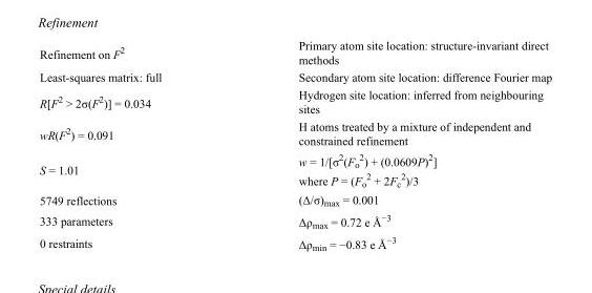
<table><tbody><tr><td>Refinement on F<sup>2</sup></td><td>Primary atom site location: structure-invariant direct methods</td></tr><tr><td>Least-squares matrix: full</td><td>Secondary atom site location: difference Fourier map</td></tr><tr><td>R[F<sup>2</sup> &gt; 2σ(F<sup>2</sup>)] = 0.034</td><td>Hydrogen site location: inferred from neighbouring sites</td></tr><tr><td>wR(F<sup>2</sup>) = 0.091</td><td>H atoms treated by a mixture of independent and constrained refinement</td></tr><tr><td>S = 1.01</td><td>w = 1/[σ<sup>2</sup>(F<sub>o</sub> <sup>2</sup>) + (0.0609P)<sup>2</sup>] where P = (F<sub>o</sub> <sup>2</sup> + 2F<sub>c</sub> <sup>2</sup>)/3</td></tr><tr><td>5749 reflections</td><td>(Δ/σ)<sub>max</sub> = 0.001</td></tr><tr><td>333 parameters</td><td>Δρ<sub>max</sub> = 0.72 e Å<sup>−3</sup></td></tr><tr><td>0 restraints</td><td>Δρ<sub>min</sub> = −0.83 e Å<sup>−3</sup></td></tr></tbody></table>